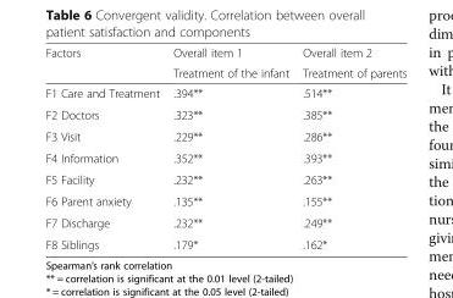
<table><thead><tr><td rowspan="2">Factors</td><td rowspan="2">Overall item 1 Treatment of the infant</td><td rowspan="2">Overall item 2 Treatment of parents</td></tr><tr></tr></thead><tbody><tr><td>F1 Care and Treatment</td><td>.394**</td><td>.514**</td></tr><tr><td>F2 Doctors</td><td>.323**</td><td>.385**</td></tr><tr><td>F3 Visit</td><td>.229**</td><td>.286**</td></tr><tr><td>F4 Information</td><td>.352**</td><td>.393**</td></tr><tr><td>F5 Facility</td><td>.232**</td><td>.263**</td></tr><tr><td>F6 Parent anxiety</td><td>.135**</td><td>.155**</td></tr><tr><td>F7 Discharge</td><td>.232**</td><td>.249**</td></tr><tr><td>F8 Siblings</td><td>.179*</td><td>.162*</td></tr></tbody></table>